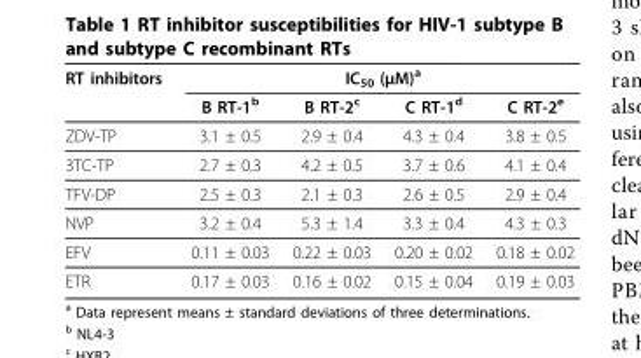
<table><thead><tr><td rowspan="2">RT inhibitors</td><td colspan="4">IC<sub>50</sub> (μM)<sup>a</sup></td></tr><tr><td>B RT-1<sup>b</sup></td><td>B RT-2<sup>c</sup></td><td>C RT-1<sup>d</sup></td><td>C RT-2<sup>e</sup></td></tr></thead><tbody><tr><td>ZDV-TP</td><td>3.1 ± 0.5</td><td>2.9 ± 0.4</td><td>4.3 ± 0.4</td><td>3.8 ± 0.5</td></tr><tr><td>3TC-TP</td><td>2.7 ± 0.3</td><td>4.2 ± 0.5</td><td>3.7 ± 0.6</td><td>4.1 ± 0.4</td></tr><tr><td>TFV-DP</td><td>2.5 ± 0.3</td><td>2.1 ± 0.3</td><td>2.6 ± 0.5</td><td>2.9 ± 0.4</td></tr><tr><td>NVP</td><td>3.2 ± 0.4</td><td>5.3 ± 1.4</td><td>3.3 ± 0.4</td><td>4.3 ± 0.3</td></tr><tr><td>EFV</td><td>0.11 ± 0.03</td><td>0.22 ± 0.03</td><td>0.20 ± 0.02</td><td>0.18 ± 0.02</td></tr><tr><td>ETR</td><td>0.17 ± 0.03</td><td>0.16 ± 0.02</td><td>0.15 ± 0.04</td><td>0.19 ± 0.03</td></tr></tbody></table>